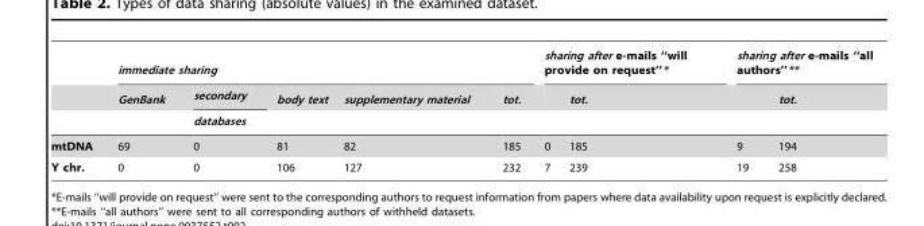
<table><thead><tr><td rowspan="3"></td><td colspan="5">immediate sharing</td><td colspan="2">sharing after e-mails ‘‘will provide on request’’*</td><td colspan="2">sharing after e-mails ‘‘all authors’’**</td></tr><tr><td rowspan="2">GenBank</td><td rowspan="2">secondary databases</td><td rowspan="2">body text</td><td rowspan="2">supplementary material</td><td rowspan="2">tot.</td><td rowspan="2"></td><td rowspan="2">tot.</td><td rowspan="2"></td><td rowspan="2">tot.</td></tr><tr></tr></thead><tbody><tr><td>mtDNA</td><td>69</td><td>0</td><td>81</td><td>82</td><td>185</td><td>0</td><td>185</td><td>9</td><td>194</td></tr><tr><td>Y chr.</td><td>0</td><td>0</td><td>106</td><td>127</td><td>232</td><td>7</td><td>239</td><td>19</td><td>258</td></tr></tbody></table>